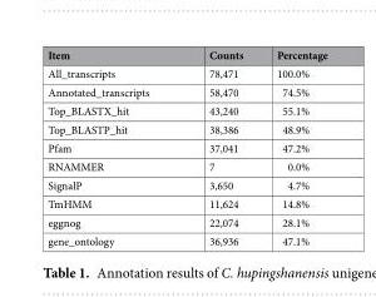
<table><thead><tr><td>Item</td><td>Counts</td><td>Percentage</td></tr></thead><tbody><tr><td>All_transcripts</td><td>78,471</td><td>100.0%</td></tr><tr><td>Annotated_transcripts</td><td>58,470</td><td>74.5%</td></tr><tr><td>Top_BLASTX_hit</td><td>43,240</td><td>55.1%</td></tr><tr><td>Top_BLASTP_hit</td><td>38,386</td><td>48.9%</td></tr><tr><td>Pfam</td><td>37,041</td><td>47.2%</td></tr><tr><td>RNAMMER</td><td>7</td><td>0.0%</td></tr><tr><td>SignalP</td><td>3,650</td><td>4.7%</td></tr><tr><td>TmHMM</td><td>11,624</td><td>14.8%</td></tr><tr><td>eggnog</td><td>22,074</td><td>28.1%</td></tr><tr><td>gene_ontology</td><td>36,936</td><td>47.1%</td></tr></tbody></table>